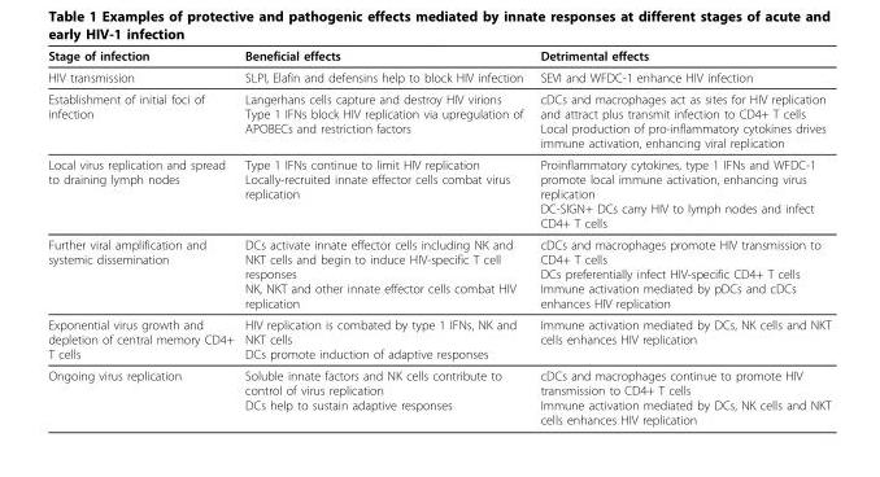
<table><thead><tr><td>Stage of infection</td><td>Beneficial effects</td><td>Detrimental effects</td></tr></thead><tbody><tr><td>HIV transmission</td><td>SLPI, Elafin and defensins help to block HIV infection</td><td>SEVI and WFDC-1 enhance HIV infection</td></tr><tr><td>Establishment of initial foci of infection</td><td>Langerhans cells capture and destroy HIV virions Type 1 IFNs block HIV replication via upregulation of APOBECs and restriction factors</td><td>cDCs and macrophages act as sites for HIV replication and attract plus transmit infection to CD4+ T cells Local production of pro-inflammatory cytokines drives immune activation, enhancing viral replication</td></tr><tr><td>Local virus replication and spread to draining lymph nodes</td><td>Type 1 IFNs continue to limit HIV replication Locally-recruited innate effector cells combat virus replication</td><td>Proinflammatory cytokines, type 1 IFNs and WFDC-1 promote local immune activation, enhancing virus replication DC-SIGN+ DCs carry HIV to lymph nodes and infect CD4+ T cells</td></tr><tr><td>Further viral amplification and systemic dissemination</td><td>DCs activate innate effector cells including NK and NKT cells and begin to induce HIV-specific T cell responses NK, NKT and other innate effector cells combat HIV replication</td><td>cDCs and macrophages promote HIV transmission to CD4+ T cells DCs preferentially infect HIV-specific CD4+ T cells Immune activation mediated by pDCs and cDCs enhances HIV replication</td></tr><tr><td>Exponential virus growth and depletion of central memory CD4+ T cells</td><td>HIV replication is combated by type 1 IFNs, NK and NKT cells DCs promote induction of adaptive responses</td><td>Immune activation mediated by DCs, NK cells and NKT cells enhances HIV replication</td></tr><tr><td>Ongoing virus replication</td><td>Soluble innate factors and NK cells contribute to control of virus replication DCs help to sustain adaptive responses</td><td>cDCs and macrophages continue to promote HIV transmission to CD4+ T cells Immune activation mediated by DCs, NK cells and NKT cells enhances HIV replication</td></tr></tbody></table>